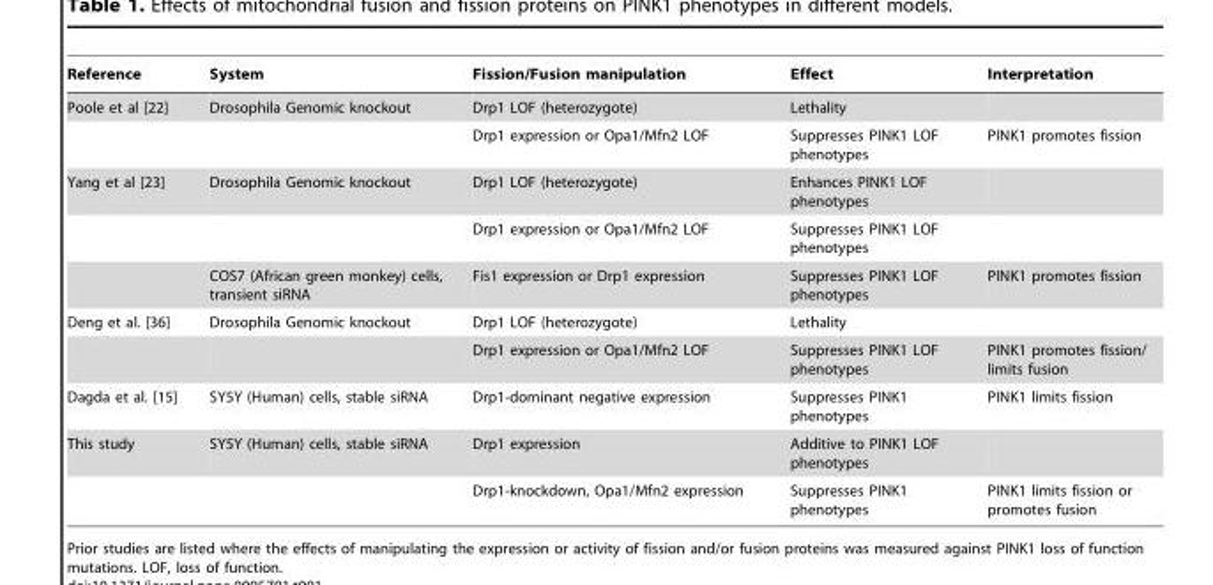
<table><thead><tr><td>Reference</td><td>System</td><td>Fission/Fusion manipulation</td><td>Effect</td><td>Interpretation</td></tr></thead><tbody><tr><td rowspan="2">Poole et al [22]</td><td>Drosophila Genomic knockout</td><td>Drp1 LOF (heterozygote)</td><td>Lethality</td><td></td></tr><tr><td></td><td>Drp1 expression or Opa1/Mfn2 LOF</td><td>Suppresses PINK1 LOF phenotypes</td><td>PINK1 promotes fission</td></tr><tr><td rowspan="3">Yang et al [23]</td><td>Drosophila Genomic knockout</td><td>Drp1 LOF (heterozygote)</td><td>Enhances PINK1 LOF phenotypes</td><td></td></tr><tr><td></td><td>Drp1 expression or Opa1/Mfn2 LOF</td><td>Suppresses PINK1 LOF phenotypes</td><td></td></tr><tr><td>COS7 (African green monkey) cells, transient siRNA</td><td>Fis1 expression or Drp1 expression</td><td>Suppresses PINK1 LOF phenotypes</td><td>PINK1 promotes fission</td></tr><tr><td rowspan="2">Deng et al. [36]</td><td>Drosophila Genomic knockout</td><td>Drp1 LOF (heterozygote)</td><td>Lethality</td><td></td></tr><tr><td></td><td>Drp1 expression or Opa1/Mfn2 LOF</td><td>Suppresses PINK1 LOF phenotypes</td><td>PINK1 promotes fission/ limits fusion</td></tr><tr><td>Dagda et al. [15]</td><td>SY5Y (Human) cells, stable siRNA</td><td>Drp1-dominant negative expression</td><td>Suppresses PINK1 phenotypes</td><td>PINK1 limits fission</td></tr><tr><td rowspan="2">This study</td><td>SY5Y (Human) cells, stable siRNA</td><td>Drp1 expression</td><td>Additive to PINK1 LOF phenotypes</td><td></td></tr><tr><td></td><td>Drp1-knockdown, Opa1/Mfn2 expression</td><td>Suppresses PINK1 phenotypes</td><td>PINK1 limits fission or promotes fusion</td></tr></tbody></table>